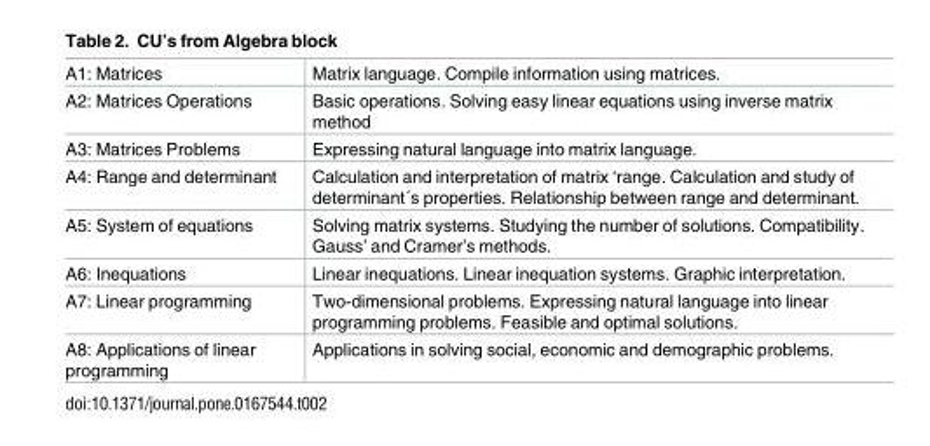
<table><tbody><tr><td>A1: Matrices</td><td>Matrix language. Compile information using matrices.</td></tr><tr><td>A2: Matrices Operations</td><td>Basic operations. Solving easy linear equations using inverse matrix method</td></tr><tr><td>A3: Matrices Problems</td><td>Expressing natural language into matrix language.</td></tr><tr><td>A4: Range and determinant</td><td>Calculation and interpretation of matrix ‘range. Calculation and study of determinant´s properties. Relationship between range and determinant.</td></tr><tr><td>A5: System of equations</td><td>Solving matrix systems. Studying the number of solutions. Compatibility. Gauss’ and Cramer’s methods.</td></tr><tr><td>A6: Inequations</td><td>Linear inequations. Linear inequation systems. Graphic interpretation.</td></tr><tr><td>A7: Linear programming</td><td>Two-dimensional problems. Expressing natural language into linear programming problems. Feasible and optimal solutions.</td></tr><tr><td>A8: Applications of linear programming</td><td>Applications in solving social, economic and demographic problems.</td></tr></tbody></table>